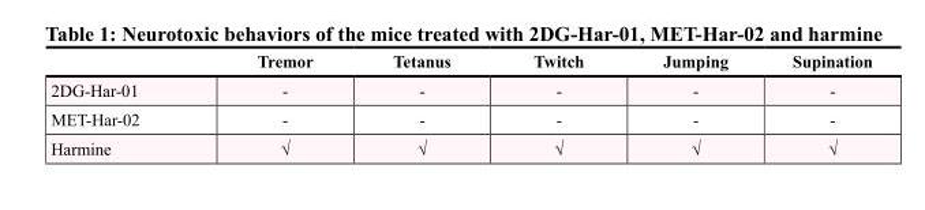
<table><thead><tr><td></td><td>Tremor</td><td>Tetanus</td><td>Twitch</td><td>Jumping</td><td>Supination</td></tr></thead><tbody><tr><td>2DG-Har-01</td><td>-</td><td>-</td><td>-</td><td>-</td><td>-</td></tr><tr><td>MET-Har-02</td><td>-</td><td>-</td><td>-</td><td>-</td><td>-</td></tr><tr><td>Harmine</td><td>√</td><td>√</td><td>√</td><td>√</td><td>√</td></tr></tbody></table>